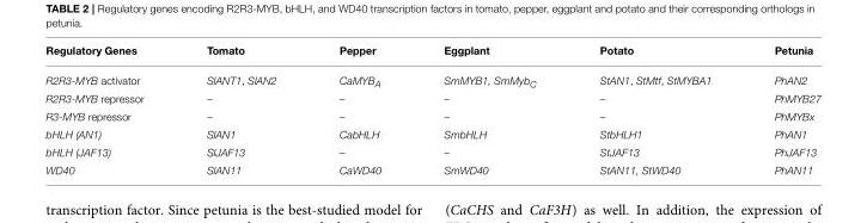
<table><thead><tr><td>Regulatory Genes</td><td>Tomato</td><td>Pepper</td><td>Eggplant</td><td>Potato</td><td>Petunia</td></tr></thead><tbody><tr><td>R2R3-MYB activator</td><td>SlANT1, SlAN2</td><td>CaMYBA</td><td>SmMYB1, SmMybC</td><td>StAN1, StMtf, StMYBA1</td><td>PhAN2</td></tr><tr><td>R2R3-MYB repressor</td><td>–</td><td>–</td><td>–</td><td>–</td><td>PhMYB27</td></tr><tr><td>R3-MYB repressor</td><td>–</td><td>–</td><td>–</td><td>–</td><td>PhMYBx</td></tr><tr><td>bHLH (AN1)</td><td>SlAN1</td><td>CabHLH</td><td>SmbHLH</td><td>StbHLH1</td><td>PhAN1</td></tr><tr><td>bHLH (JAF13)</td><td>SlJAF13</td><td>–</td><td>–</td><td>StJAF13</td><td>PhJAF13</td></tr><tr><td>WD40</td><td>SlAN11</td><td>CaWD40</td><td>SmWD40</td><td>StAN11, StWD40</td><td>PhAN11</td></tr></tbody></table>